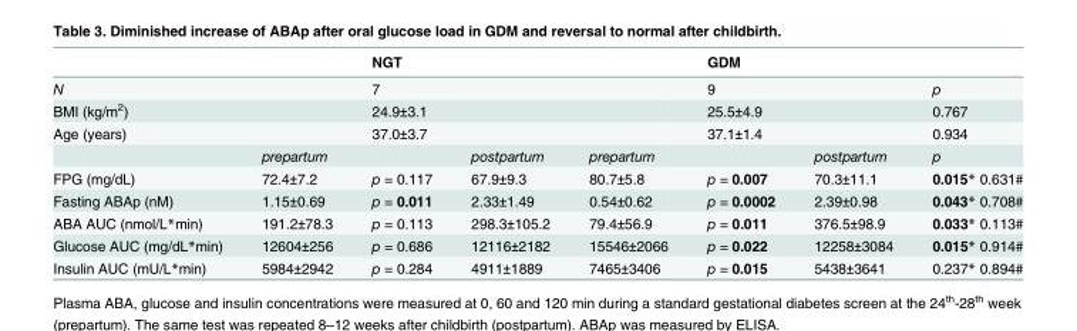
<table><thead><tr><td></td><td></td><td>NGT</td><td></td><td></td><td>GDM</td><td></td><td></td></tr></thead><tbody><tr><td>N</td><td></td><td>7</td><td></td><td></td><td>9</td><td></td><td>p</td></tr><tr><td>BMI (kg/m<sup>2</sup>)</td><td></td><td>24.9±3.1</td><td></td><td></td><td>25.5±4.9</td><td></td><td>0.767</td></tr><tr><td rowspan="2">Age (years)</td><td></td><td>37.0±3.7</td><td></td><td></td><td>37.1±1.4</td><td></td><td>0.934</td></tr><tr><td>prepartum</td><td></td><td>postpartum</td><td>prepartum</td><td></td><td>postpartum</td><td>p</td></tr><tr><td>FPG (mg/dL)</td><td>72.4±7.2</td><td>p = 0.117</td><td>67.9±9.3</td><td>80.7±5.8</td><td>p = 0.007</td><td>70.3±11.1</td><td>0.015* 0.631#</td></tr><tr><td>Fasting ABAp (nM)</td><td>1.15±0.69</td><td>p = 0.011</td><td>2.33±1.49</td><td>0.54±0.62</td><td>p = 0.0002</td><td>2.39±0.98</td><td>0.043* 0.708#</td></tr><tr><td>ABA AUC (nmol/L*min)</td><td>191.2±78.3</td><td>p = 0.113</td><td>298.3±105.2</td><td>79.4±56.9</td><td>p = 0.011</td><td>376.5±98.9</td><td>0.033* 0.113#</td></tr><tr><td>Glucose AUC (mg/dL*min)</td><td>12604±256</td><td>p = 0.686</td><td>12116±2182</td><td>15546±2066</td><td>p = 0.022</td><td>12258±3084</td><td>0.015* 0.914#</td></tr><tr><td>Insulin AUC (mU/L*min)</td><td>5984±2942</td><td>p = 0.284</td><td>4911±1889</td><td>7465±3406</td><td>p = 0.015</td><td>5438±3641</td><td>0.237* 0.894#</td></tr></tbody></table>